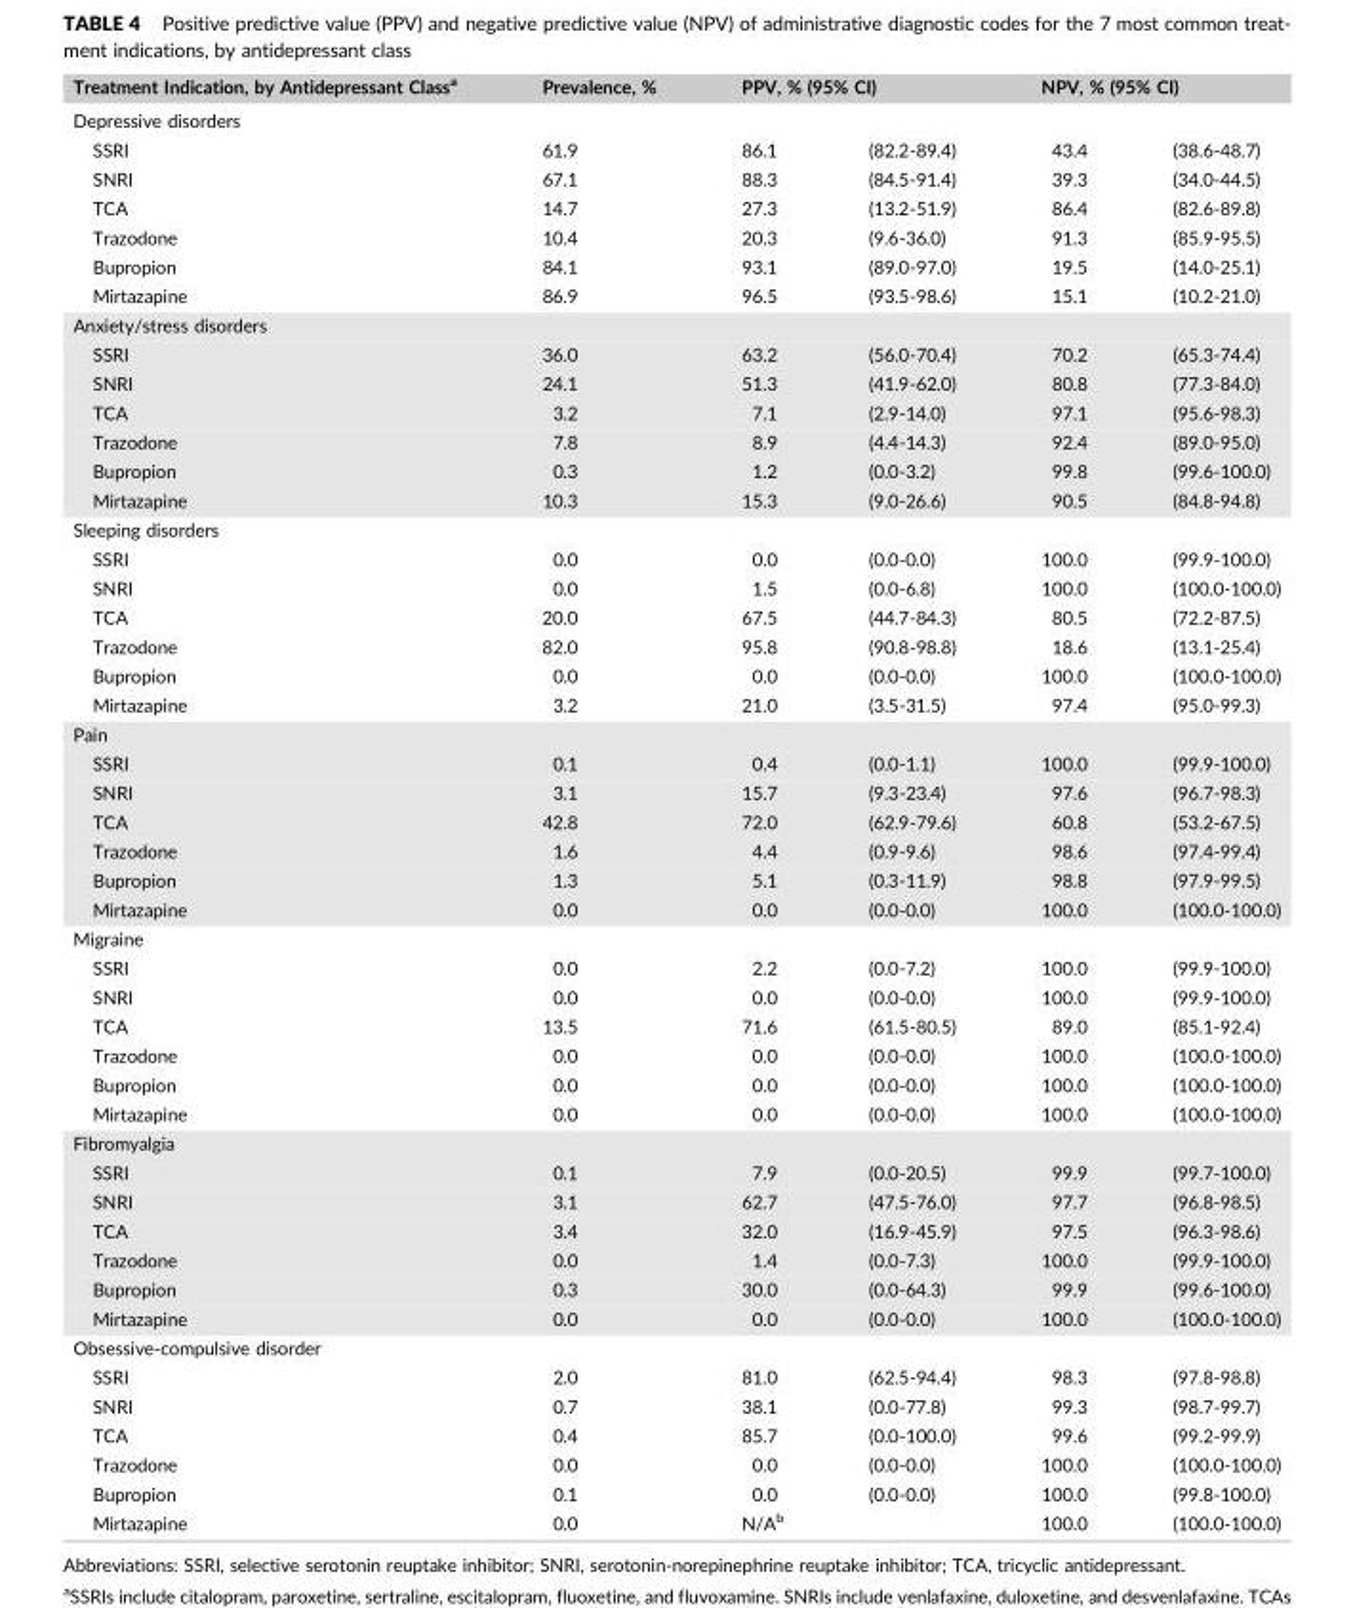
<table><thead><tr><td rowspan="2">Treatment Indication, by Antidepressant Class<sup>a</sup> Depressive disorders</td><td rowspan="2">Prevalence, %</td><td colspan="2">PPV, % (95% CI)</td><td colspan="2">NPV, % (95% CI)</td></tr><tr><td></td><td></td><td></td><td></td></tr></thead><tbody><tr><td>SSRI</td><td>61.9</td><td>86.1</td><td>(82.2‐89.4)</td><td>43.4</td><td>(38.6‐48.7)</td></tr><tr><td>SNRI</td><td>67.1</td><td>88.3</td><td>(84.5‐91.4)</td><td>39.3</td><td>(34.0‐44.5)</td></tr><tr><td>TCA</td><td>14.7</td><td>27.3</td><td>(13.2‐51.9)</td><td>86.4</td><td>(82.6‐89.8)</td></tr><tr><td>Trazodone</td><td>10.4</td><td>20.3</td><td>(9.6‐36.0)</td><td>91.3</td><td>(85.9‐95.5)</td></tr><tr><td>Bupropion</td><td>84.1</td><td>93.1</td><td>(89.0‐97.0)</td><td>19.5</td><td>(14.0‐25.1)</td></tr><tr><td>Mirtazapine</td><td>86.9</td><td>96.5</td><td>(93.5‐98.6)</td><td>15.1</td><td>(10.2‐21.0)</td></tr><tr><td colspan="6">Anxiety/stress disorders</td></tr><tr><td>SSRI</td><td>36.0</td><td>63.2</td><td>(56.0‐70.4)</td><td>70.2</td><td>(65.3‐74.4)</td></tr><tr><td>SNRI</td><td>24.1</td><td>51.3</td><td>(41.9‐62.0)</td><td>80.8</td><td>(77.3‐84.0)</td></tr><tr><td>TCA</td><td>3.2</td><td>7.1</td><td>(2.9‐14.0)</td><td>97.1</td><td>(95.6‐98.3)</td></tr><tr><td>Trazodone</td><td>7.8</td><td>8.9</td><td>(4.4‐14.3)</td><td>92.4</td><td>(89.0‐95.0)</td></tr><tr><td>Bupropion</td><td>0.3</td><td>1.2</td><td>(0.0‐3.2)</td><td>99.8</td><td>(99.6‐100.0)</td></tr><tr><td>Mirtazapine</td><td>10.3</td><td>15.3</td><td>(9.0‐26.6)</td><td>90.5</td><td>(84.8‐94.8)</td></tr><tr><td colspan="6">Sleeping disorders</td></tr><tr><td>SSRI</td><td>0.0</td><td>0.0</td><td>(0.0‐0.0)</td><td>100.0</td><td>(99.9‐100.0)</td></tr><tr><td>SNRI</td><td>0.0</td><td>1.5</td><td>(0.0‐6.8)</td><td>100.0</td><td>(100.0‐100.0)</td></tr><tr><td>TCA</td><td>20.0</td><td>67.5</td><td>(44.7‐84.3)</td><td>80.5</td><td>(72.2‐87.5)</td></tr><tr><td>Trazodone</td><td>82.0</td><td>95.8</td><td>(90.8‐98.8)</td><td>18.6</td><td>(13.1‐25.4)</td></tr><tr><td>Bupropion</td><td>0.0</td><td>0.0</td><td>(0.0‐0.0)</td><td>100.0</td><td>(100.0‐100.0)</td></tr><tr><td>Mirtazapine</td><td>3.2</td><td>21.0</td><td>(3.5‐31.5)</td><td>97.4</td><td>(95.0‐99.3)</td></tr><tr><td colspan="6">Pain</td></tr><tr><td>SSRI</td><td>0.1</td><td>0.4</td><td>(0.0‐1.1)</td><td>100.0</td><td>(99.9‐100.0)</td></tr><tr><td>SNRI</td><td>3.1</td><td>15.7</td><td>(9.3‐23.4)</td><td>97.6</td><td>(96.7‐98.3)</td></tr><tr><td>TCA</td><td>42.8</td><td>72.0</td><td>(62.9‐79.6)</td><td>60.8</td><td>(53.2‐67.5)</td></tr><tr><td>Trazodone</td><td>1.6</td><td>4.4</td><td>(0.9‐9.6)</td><td>98.6</td><td>(97.4‐99.4)</td></tr><tr><td>Bupropion</td><td>1.3</td><td>5.1</td><td>(0.3‐11.9)</td><td>98.8</td><td>(97.9‐99.5)</td></tr><tr><td>Mirtazapine</td><td>0.0</td><td>0.0</td><td>(0.0‐0.0)</td><td>100.0</td><td>(100.0‐100.0)</td></tr><tr><td colspan="6">Migraine</td></tr><tr><td>SSRI</td><td>0.0</td><td>2.2</td><td>(0.0‐7.2)</td><td>100.0</td><td>(99.9‐100.0)</td></tr><tr><td>SNRI</td><td>0.0</td><td>0.0</td><td>(0.0‐0.0)</td><td>100.0</td><td>(99.9‐100.0)</td></tr><tr><td>TCA</td><td>13.5</td><td>71.6</td><td>(61.5‐80.5)</td><td>89.0</td><td>(85.1‐92.4)</td></tr><tr><td>Trazodone</td><td>0.0</td><td>0.0</td><td>(0.0‐0.0)</td><td>100.0</td><td>(100.0‐100.0)</td></tr><tr><td>Bupropion</td><td>0.0</td><td>0.0</td><td>(0.0‐0.0)</td><td>100.0</td><td>(100.0‐100.0)</td></tr><tr><td>Mirtazapine</td><td>0.0</td><td>0.0</td><td>(0.0‐0.0)</td><td>100.0</td><td>(100.0‐100.0)</td></tr><tr><td colspan="6">Fibromyalgia</td></tr><tr><td>SSRI</td><td>0.1</td><td>7.9</td><td>(0.0‐20.5)</td><td>99.9</td><td>(99.7‐100.0)</td></tr><tr><td>SNRI</td><td>3.1</td><td>62.7</td><td>(47.5‐76.0)</td><td>97.7</td><td>(96.8‐98.5)</td></tr><tr><td>TCA</td><td>3.4</td><td>32.0</td><td>(16.9‐45.9)</td><td>97.5</td><td>(96.3‐98.6)</td></tr><tr><td>Trazodone</td><td>0.0</td><td>1.4</td><td>(0.0‐7.3)</td><td>100.0</td><td>(99.9‐100.0)</td></tr><tr><td>Bupropion</td><td>0.3</td><td>30.0</td><td>(0.0‐64.3)</td><td>99.9</td><td>(99.6‐100.0)</td></tr><tr><td>Mirtazapine</td><td>0.0</td><td>0.0</td><td>(0.0‐0.0)</td><td>100.0</td><td>(100.0‐100.0)</td></tr><tr><td colspan="6">Obsessive‐compulsive disorder</td></tr><tr><td>SSRI</td><td>2.0</td><td>81.0</td><td>(62.5‐94.4)</td><td>98.3</td><td>(97.8‐98.8)</td></tr><tr><td>SNRI</td><td>0.7</td><td>38.1</td><td>(0.0‐77.8)</td><td>99.3</td><td>(98.7‐99.7)</td></tr><tr><td>TCA</td><td>0.4</td><td>85.7</td><td>(0.0‐100.0)</td><td>99.6</td><td>(99.2‐99.9)</td></tr><tr><td>Trazodone</td><td>0.0</td><td>0.0</td><td>(0.0‐0.0)</td><td>100.0</td><td>(100.0‐100.0)</td></tr><tr><td>Bupropion</td><td>0.1</td><td>0.0</td><td>(0.0‐0.0)</td><td>100.0</td><td>(99.8‐100.0)</td></tr><tr><td>Mirtazapine</td><td>0.0</td><td>N/A<sup>b</sup></td><td></td><td>100.0</td><td>(100.0‐100.0)</td></tr></tbody></table>